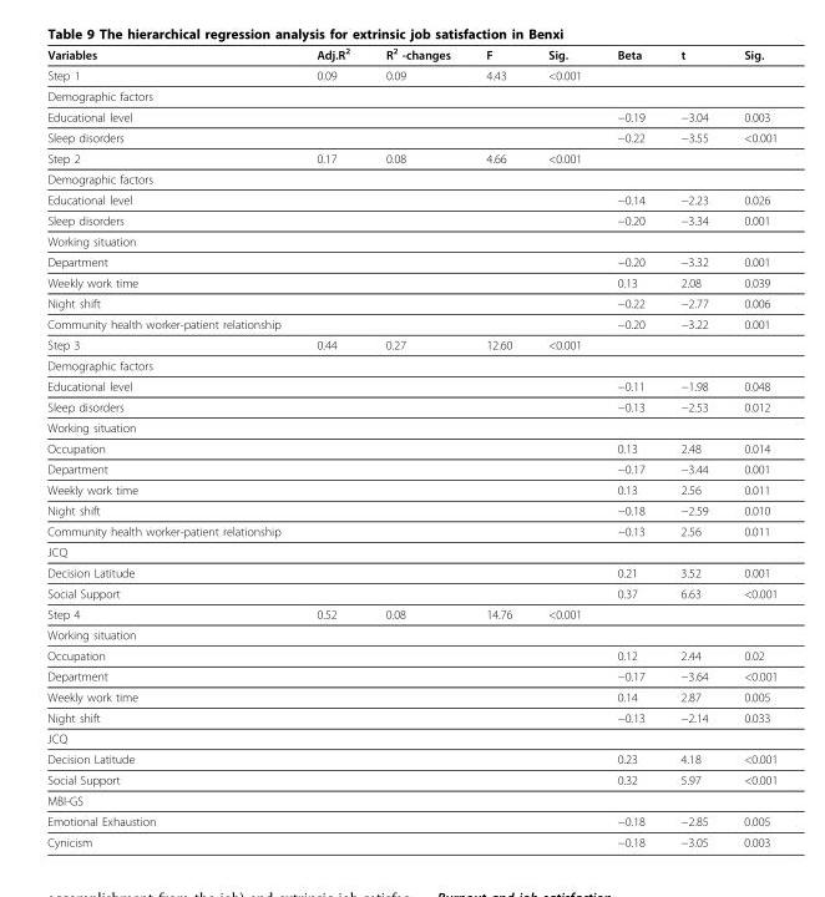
<table><thead><tr><td>Variables</td><td>Adj.R<sup>2</sup></td><td>R<sup>2</sup> -changes</td><td>F</td><td>Sig.</td><td>Beta</td><td>t</td><td>Sig.</td></tr></thead><tbody><tr><td>Step 1</td><td>0.09</td><td>0.09</td><td>4.43</td><td>&lt;0.001</td><td></td><td></td><td></td></tr><tr><td colspan="8">Demographic factors</td></tr><tr><td>Educational level</td><td></td><td></td><td></td><td></td><td>−0.19</td><td>−3.04</td><td>0.003</td></tr><tr><td>Sleep disorders</td><td></td><td></td><td></td><td></td><td>−0.22</td><td>−3.55</td><td>&lt;0.001</td></tr><tr><td>Step 2</td><td>0.17</td><td>0.08</td><td>4.66</td><td>&lt;0.001</td><td></td><td></td><td></td></tr><tr><td colspan="8">Demographic factors</td></tr><tr><td>Educational level</td><td></td><td></td><td></td><td></td><td>−0.14</td><td>−2.23</td><td>0.026</td></tr><tr><td>Sleep disorders</td><td></td><td></td><td></td><td></td><td>−0.20</td><td>−3.34</td><td>0.001</td></tr><tr><td colspan="8">Working situation</td></tr><tr><td>Department</td><td></td><td></td><td></td><td></td><td>−0.20</td><td>−3.32</td><td>0.001</td></tr><tr><td>Weekly work time</td><td></td><td></td><td></td><td></td><td>0.13</td><td>2.08</td><td>0.039</td></tr><tr><td>Night shift</td><td></td><td></td><td></td><td></td><td>−0.22</td><td>−2.77</td><td>0.006</td></tr><tr><td>Community health worker-patient relationship</td><td></td><td></td><td></td><td></td><td>−0.20</td><td>−3.22</td><td>0.001</td></tr><tr><td>Step 3</td><td>0.44</td><td>0.27</td><td>12.60</td><td>&lt;0.001</td><td></td><td></td><td></td></tr><tr><td colspan="8">Demographic factors</td></tr><tr><td>Educational level</td><td></td><td></td><td></td><td></td><td>−0.11</td><td>−1.98</td><td>0.048</td></tr><tr><td>Sleep disorders</td><td></td><td></td><td></td><td></td><td>−0.13</td><td>−2.53</td><td>0.012</td></tr><tr><td colspan="8">Working situation</td></tr><tr><td>Occupation</td><td></td><td></td><td></td><td></td><td>0.13</td><td>2.48</td><td>0.014</td></tr><tr><td>Department</td><td></td><td></td><td></td><td></td><td>−0.17</td><td>−3.44</td><td>0.001</td></tr><tr><td>Weekly work time</td><td></td><td></td><td></td><td></td><td>0.13</td><td>2.56</td><td>0.011</td></tr><tr><td>Night shift</td><td></td><td></td><td></td><td></td><td>−0.18</td><td>−2.59</td><td>0.010</td></tr><tr><td>Community health worker-patient relationship</td><td></td><td></td><td></td><td></td><td>−0.13</td><td>2.56</td><td>0.011</td></tr><tr><td colspan="8">JCQ</td></tr><tr><td>Decision Latitude</td><td></td><td></td><td></td><td></td><td>0.21</td><td>3.52</td><td>0.001</td></tr><tr><td>Social Support</td><td></td><td></td><td></td><td></td><td>0.37</td><td>6.63</td><td>&lt;0.001</td></tr><tr><td>Step 4</td><td>0.52</td><td>0.08</td><td>14.76</td><td>&lt;0.001</td><td></td><td></td><td></td></tr><tr><td colspan="8">Working situation</td></tr><tr><td>Occupation</td><td></td><td></td><td></td><td></td><td>0.12</td><td>2.44</td><td>0.02</td></tr><tr><td>Department</td><td></td><td></td><td></td><td></td><td>−0.17</td><td>−3.64</td><td>&lt;0.001</td></tr><tr><td>Weekly work time</td><td></td><td></td><td></td><td></td><td>0.14</td><td>2.87</td><td>0.005</td></tr><tr><td>Night shift</td><td></td><td></td><td></td><td></td><td>−0.13</td><td>−2.14</td><td>0.033</td></tr><tr><td colspan="8">JCQ</td></tr><tr><td>Decision Latitude</td><td></td><td></td><td></td><td></td><td>0.23</td><td>4.18</td><td>&lt;0.001</td></tr><tr><td>Social Support</td><td></td><td></td><td></td><td></td><td>0.32</td><td>5.97</td><td>&lt;0.001</td></tr><tr><td colspan="8">MBI-GS</td></tr><tr><td>Emotional Exhaustion</td><td></td><td></td><td></td><td></td><td>−0.18</td><td>−2.85</td><td>0.005</td></tr><tr><td>Cynicism</td><td></td><td></td><td></td><td></td><td>−0.18</td><td>−3.05</td><td>0.003</td></tr></tbody></table>